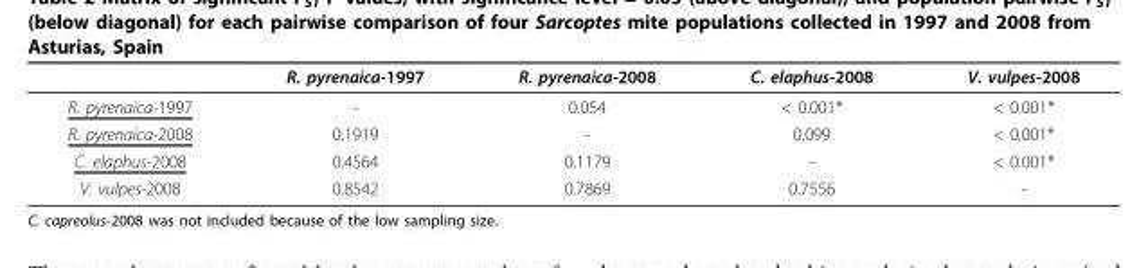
<table><thead><tr><td></td><td>R. pyrenaica-1997</td><td>R. pyrenaica-2008</td><td>C. elaphus-2008</td><td>V. vulpes-2008</td></tr></thead><tbody><tr><td>R. pyrenaica-1997</td><td>-</td><td>0.054</td><td>&lt; 0.001*</td><td>&lt; 0.001*</td></tr><tr><td>R. pyrenaica-2008</td><td>0.1919</td><td>-</td><td>0.099</td><td>&lt; 0.001*</td></tr><tr><td>C. elaphus-2008</td><td>0.4564</td><td>0.1179</td><td>-</td><td>&lt; 0.001*</td></tr><tr><td>V. vulpes-2008</td><td>0.8542</td><td>0.7869</td><td>0.7556</td><td>-</td></tr></tbody></table>